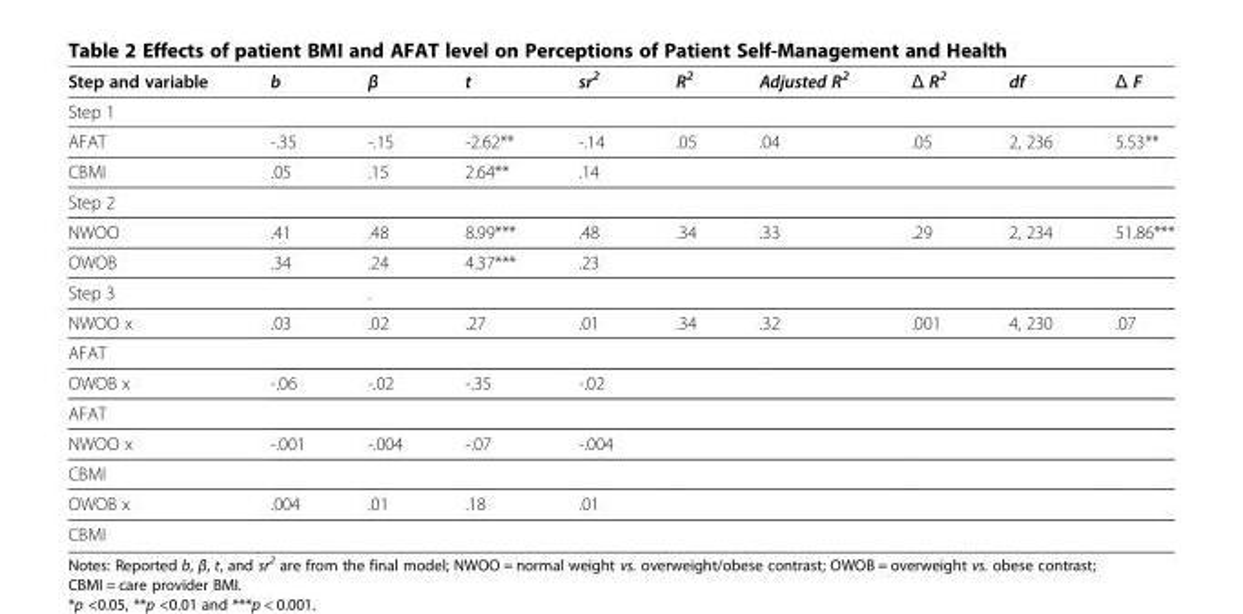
<table><thead><tr><td>Step and variable</td><td>b</td><td>β</td><td>t</td><td>sr<sup>2</sup></td><td>R<sup>2</sup></td><td>Adjusted R<sup>2</sup></td><td>Δ R<sup>2</sup></td><td>df</td><td>Δ F</td></tr></thead><tbody><tr><td colspan="10">Step 1</td></tr><tr><td>AFAT</td><td>-.35</td><td>-.15</td><td>-2.62**</td><td>-.14</td><td>.05</td><td>.04</td><td>.05</td><td>2, 236</td><td>5.53**</td></tr><tr><td>CBMI</td><td>.05</td><td>.15</td><td>2.64**</td><td>.14</td><td></td><td></td><td></td><td></td><td></td></tr><tr><td colspan="10">Step 2</td></tr><tr><td>NWOO</td><td>.41</td><td>.48</td><td>8.99***</td><td>.48</td><td>.34</td><td>.33</td><td>.29</td><td>2, 234</td><td>51.86***</td></tr><tr><td>OWOB</td><td>.34</td><td>.24</td><td>4.37***</td><td>.23</td><td></td><td></td><td></td><td></td><td></td></tr><tr><td>Step 3</td><td></td><td>.</td><td></td><td></td><td></td><td></td><td></td><td></td><td></td></tr><tr><td>NWOO x</td><td>.03</td><td>.02</td><td>.27</td><td>.01</td><td>.34</td><td>.32</td><td>.001</td><td>4, 230</td><td>.07</td></tr><tr><td colspan="10">AFAT</td></tr><tr><td>OWOB x</td><td>-.06</td><td>-.02</td><td>-.35</td><td>-.02</td><td></td><td></td><td></td><td></td><td></td></tr><tr><td colspan="10">AFAT</td></tr><tr><td>NWOO x</td><td>-.001</td><td>-.004</td><td>-.07</td><td>-.004</td><td></td><td></td><td></td><td></td><td></td></tr><tr><td colspan="10">CBMI</td></tr><tr><td>OWOB x</td><td>.004</td><td>.01</td><td>.18</td><td>.01</td><td></td><td></td><td></td><td></td><td></td></tr><tr><td>CBMI</td><td></td><td></td><td></td><td></td><td></td><td></td><td></td><td></td><td></td></tr></tbody></table>